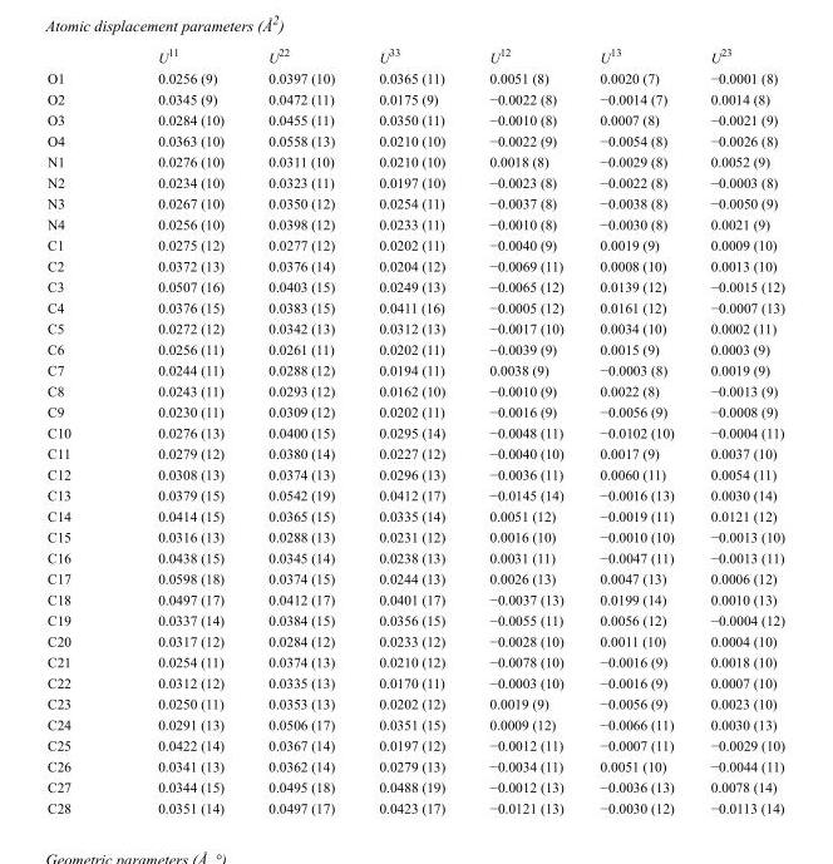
<table><thead><tr><td></td><td>U<sup>11</sup></td><td>U<sup>22</sup></td><td>U<sup>33</sup></td><td>U<sup>12</sup></td><td>U<sup>13</sup></td><td>U<sup>23</sup></td></tr></thead><tbody><tr><td>O1</td><td>0.0256 (9)</td><td>0.0397 (10)</td><td>0.0365 (11)</td><td>0.0051 (8)</td><td>0.0020 (7)</td><td>−0.0001 (8)</td></tr><tr><td>O2</td><td>0.0345 (9)</td><td>0.0472 (11)</td><td>0.0175 (9)</td><td>−0.0022 (8)</td><td>−0.0014 (7)</td><td>0.0014 (8)</td></tr><tr><td>O3</td><td>0.0284 (10)</td><td>0.0455 (11)</td><td>0.0350 (11)</td><td>−0.0010 (8)</td><td>0.0007 (8)</td><td>−0.0021 (9)</td></tr><tr><td>O4</td><td>0.0363 (10)</td><td>0.0558 (13)</td><td>0.0210 (10)</td><td>−0.0022 (9)</td><td>−0.0054 (8)</td><td>−0.0026 (8)</td></tr><tr><td>N1</td><td>0.0276 (10)</td><td>0.0311 (10)</td><td>0.0210 (10)</td><td>0.0018 (8)</td><td>−0.0029 (8)</td><td>0.0052 (9)</td></tr><tr><td>N2</td><td>0.0234 (10)</td><td>0.0323 (11)</td><td>0.0197 (10)</td><td>−0.0023 (8)</td><td>−0.0022 (8)</td><td>−0.0003 (8)</td></tr><tr><td>N3</td><td>0.0267 (10)</td><td>0.0350 (12)</td><td>0.0254 (11)</td><td>−0.0037 (8)</td><td>−0.0038 (8)</td><td>−0.0050 (9)</td></tr><tr><td>N4</td><td>0.0256 (10)</td><td>0.0398 (12)</td><td>0.0233 (11)</td><td>−0.0010 (8)</td><td>−0.0030 (8)</td><td>0.0021 (9)</td></tr><tr><td>C1</td><td>0.0275 (12)</td><td>0.0277 (12)</td><td>0.0202 (11)</td><td>−0.0040 (9)</td><td>0.0019 (9)</td><td>0.0009 (10)</td></tr><tr><td>C2</td><td>0.0372 (13)</td><td>0.0376 (14)</td><td>0.0204 (12)</td><td>−0.0069 (11)</td><td>0.0008 (10)</td><td>0.0013 (10)</td></tr><tr><td>C3</td><td>0.0507 (16)</td><td>0.0403 (15)</td><td>0.0249 (13)</td><td>−0.0065 (12)</td><td>0.0139 (12)</td><td>−0.0015 (12)</td></tr><tr><td>C4</td><td>0.0376 (15)</td><td>0.0383 (15)</td><td>0.0411 (16)</td><td>−0.0005 (12)</td><td>0.0161 (12)</td><td>−0.0007 (13)</td></tr><tr><td>C5</td><td>0.0272 (12)</td><td>0.0342 (13)</td><td>0.0312 (13)</td><td>−0.0017 (10)</td><td>0.0034 (10)</td><td>0.0002 (11)</td></tr><tr><td>C6</td><td>0.0256 (11)</td><td>0.0261 (11)</td><td>0.0202 (11)</td><td>−0.0039 (9)</td><td>0.0015 (9)</td><td>0.0003 (9)</td></tr><tr><td>C7</td><td>0.0244 (11)</td><td>0.0288 (12)</td><td>0.0194 (11)</td><td>0.0038 (9)</td><td>−0.0003 (8)</td><td>0.0019 (9)</td></tr><tr><td>C8</td><td>0.0243 (11)</td><td>0.0293 (12)</td><td>0.0162 (10)</td><td>−0.0010 (9)</td><td>0.0022 (8)</td><td>−0.0013 (9)</td></tr><tr><td>C9</td><td>0.0230 (11)</td><td>0.0309 (12)</td><td>0.0202 (11)</td><td>−0.0016 (9)</td><td>−0.0056 (9)</td><td>−0.0008 (9)</td></tr><tr><td>C10</td><td>0.0276 (13)</td><td>0.0400 (15)</td><td>0.0295 (14)</td><td>−0.0048 (11)</td><td>−0.0102 (10)</td><td>−0.0004 (11)</td></tr><tr><td>C11</td><td>0.0279 (12)</td><td>0.0380 (14)</td><td>0.0227 (12)</td><td>−0.0040 (10)</td><td>0.0017 (9)</td><td>0.0037 (10)</td></tr><tr><td>C12</td><td>0.0308 (13)</td><td>0.0374 (13)</td><td>0.0296 (13)</td><td>−0.0036 (11)</td><td>0.0060 (11)</td><td>0.0054 (11)</td></tr><tr><td>C13</td><td>0.0379 (15)</td><td>0.0542 (19)</td><td>0.0412 (17)</td><td>−0.0145 (14)</td><td>−0.0016 (13)</td><td>0.0030 (14)</td></tr><tr><td>C14</td><td>0.0414 (15)</td><td>0.0365 (15)</td><td>0.0335 (14)</td><td>0.0051 (12)</td><td>−0.0019 (11)</td><td>0.0121 (12)</td></tr><tr><td>C15</td><td>0.0316 (13)</td><td>0.0288 (13)</td><td>0.0231 (12)</td><td>0.0016 (10)</td><td>−0.0010 (10)</td><td>−0.0013 (10)</td></tr><tr><td>C16</td><td>0.0438 (15)</td><td>0.0345 (14)</td><td>0.0238 (13)</td><td>0.0031 (11)</td><td>−0.0047 (11)</td><td>−0.0013 (11)</td></tr><tr><td>C17</td><td>0.0598 (18)</td><td>0.0374 (15)</td><td>0.0244 (13)</td><td>0.0026 (13)</td><td>0.0047 (13)</td><td>0.0006 (12)</td></tr><tr><td>C18</td><td>0.0497 (17)</td><td>0.0412 (17)</td><td>0.0401 (17)</td><td>−0.0037 (13)</td><td>0.0199 (14)</td><td>0.0010 (13)</td></tr><tr><td>C19</td><td>0.0337 (14)</td><td>0.0384 (15)</td><td>0.0356 (15)</td><td>−0.0055 (11)</td><td>0.0056 (12)</td><td>−0.0004 (12)</td></tr><tr><td>C20</td><td>0.0317 (12)</td><td>0.0284 (12)</td><td>0.0233 (12)</td><td>−0.0028 (10)</td><td>0.0011 (10)</td><td>0.0004 (10)</td></tr><tr><td>C21</td><td>0.0254 (11)</td><td>0.0374 (13)</td><td>0.0210 (12)</td><td>−0.0078 (10)</td><td>−0.0016 (9)</td><td>0.0018 (10)</td></tr><tr><td>C22</td><td>0.0312 (12)</td><td>0.0335 (13)</td><td>0.0170 (11)</td><td>−0.0003 (10)</td><td>−0.0016 (9)</td><td>0.0007 (10)</td></tr><tr><td>C23</td><td>0.0250 (11)</td><td>0.0353 (13)</td><td>0.0202 (12)</td><td>0.0019 (9)</td><td>−0.0056 (9)</td><td>0.0023 (10)</td></tr><tr><td>C24</td><td>0.0291 (13)</td><td>0.0506 (17)</td><td>0.0351 (15)</td><td>0.0009 (12)</td><td>−0.0066 (11)</td><td>0.0030 (13)</td></tr><tr><td>C25</td><td>0.0422 (14)</td><td>0.0367 (14)</td><td>0.0197 (12)</td><td>−0.0012 (11)</td><td>−0.0007 (11)</td><td>−0.0029 (10)</td></tr><tr><td>C26</td><td>0.0341 (13)</td><td>0.0362 (14)</td><td>0.0279 (13)</td><td>−0.0034 (11)</td><td>0.0051 (10)</td><td>−0.0044 (11)</td></tr><tr><td>C27</td><td>0.0344 (15)</td><td>0.0495 (18)</td><td>0.0488 (19)</td><td>−0.0012 (13)</td><td>−0.0036 (13)</td><td>0.0078 (14)</td></tr><tr><td>C28</td><td>0.0351 (14)</td><td>0.0497 (17)</td><td>0.0423 (17)</td><td>−0.0121 (13)</td><td>−0.0030 (12)</td><td>−0.0113 (14)</td></tr></tbody></table>